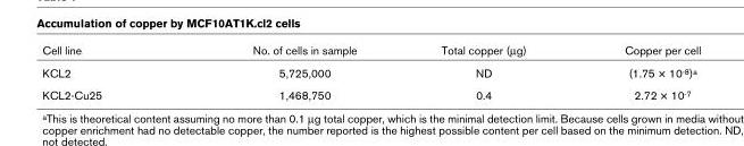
<table><thead><tr><td>Cell line</td><td>No. of cells in sample</td><td>Total copper (µg)</td><td>Copper per cell</td></tr></thead><tbody><tr><td>KCL2</td><td>5,725,000</td><td>ND</td><td>(1.75 × 10-8)a</td></tr><tr><td>KCL2-Cu25</td><td>1,468,750</td><td>0.4</td><td>2.72 × 10-7</td></tr></tbody></table>